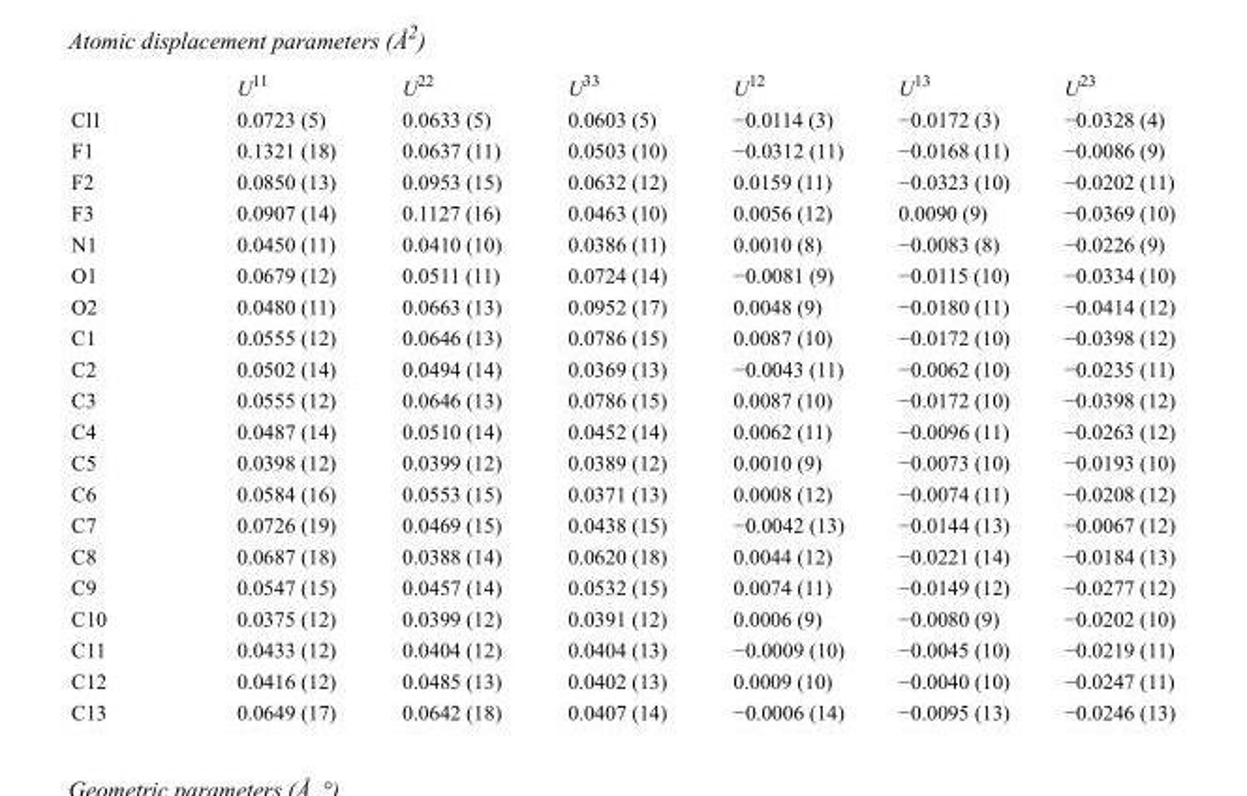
<table><thead><tr><td></td><td>U<sup>11</sup></td><td>U<sup>22</sup></td><td>U<sup>33</sup></td><td>U<sup>12</sup></td><td>U<sup>13</sup></td><td>U<sup>23</sup></td></tr></thead><tbody><tr><td>Cl1</td><td>0.0723 (5)</td><td>0.0633 (5)</td><td>0.0603 (5)</td><td>−0.0114 (3)</td><td>−0.0172 (3)</td><td>−0.0328 (4)</td></tr><tr><td>F1</td><td>0.1321 (18)</td><td>0.0637 (11)</td><td>0.0503 (10)</td><td>−0.0312 (11)</td><td>−0.0168 (11)</td><td>−0.0086 (9)</td></tr><tr><td>F2</td><td>0.0850 (13)</td><td>0.0953 (15)</td><td>0.0632 (12)</td><td>0.0159 (11)</td><td>−0.0323 (10)</td><td>−0.0202 (11)</td></tr><tr><td>F3</td><td>0.0907 (14)</td><td>0.1127 (16)</td><td>0.0463 (10)</td><td>0.0056 (12)</td><td>0.0090 (9)</td><td>−0.0369 (10)</td></tr><tr><td>N1</td><td>0.0450 (11)</td><td>0.0410 (10)</td><td>0.0386 (11)</td><td>0.0010 (8)</td><td>−0.0083 (8)</td><td>−0.0226 (9)</td></tr><tr><td>O1</td><td>0.0679 (12)</td><td>0.0511 (11)</td><td>0.0724 (14)</td><td>−0.0081 (9)</td><td>−0.0115 (10)</td><td>−0.0334 (10)</td></tr><tr><td>O2</td><td>0.0480 (11)</td><td>0.0663 (13)</td><td>0.0952 (17)</td><td>0.0048 (9)</td><td>−0.0180 (11)</td><td>−0.0414 (12)</td></tr><tr><td>C1</td><td>0.0555 (12)</td><td>0.0646 (13)</td><td>0.0786 (15)</td><td>0.0087 (10)</td><td>−0.0172 (10)</td><td>−0.0398 (12)</td></tr><tr><td>C2</td><td>0.0502 (14)</td><td>0.0494 (14)</td><td>0.0369 (13)</td><td>−0.0043 (11)</td><td>−0.0062 (10)</td><td>−0.0235 (11)</td></tr><tr><td>C3</td><td>0.0555 (12)</td><td>0.0646 (13)</td><td>0.0786 (15)</td><td>0.0087 (10)</td><td>−0.0172 (10)</td><td>−0.0398 (12)</td></tr><tr><td>C4</td><td>0.0487 (14)</td><td>0.0510 (14)</td><td>0.0452 (14)</td><td>0.0062 (11)</td><td>−0.0096 (11)</td><td>−0.0263 (12)</td></tr><tr><td>C5</td><td>0.0398 (12)</td><td>0.0399 (12)</td><td>0.0389 (12)</td><td>0.0010 (9)</td><td>−0.0073 (10)</td><td>−0.0193 (10)</td></tr><tr><td>C6</td><td>0.0584 (16)</td><td>0.0553 (15)</td><td>0.0371 (13)</td><td>0.0008 (12)</td><td>−0.0074 (11)</td><td>−0.0208 (12)</td></tr><tr><td>C7</td><td>0.0726 (19)</td><td>0.0469 (15)</td><td>0.0438 (15)</td><td>−0.0042 (13)</td><td>−0.0144 (13)</td><td>−0.0067 (12)</td></tr><tr><td>C8</td><td>0.0687 (18)</td><td>0.0388 (14)</td><td>0.0620 (18)</td><td>0.0044 (12)</td><td>−0.0221 (14)</td><td>−0.0184 (13)</td></tr><tr><td>C9</td><td>0.0547 (15)</td><td>0.0457 (14)</td><td>0.0532 (15)</td><td>0.0074 (11)</td><td>−0.0149 (12)</td><td>−0.0277 (12)</td></tr><tr><td>C10</td><td>0.0375 (12)</td><td>0.0399 (12)</td><td>0.0391 (12)</td><td>0.0006 (9)</td><td>−0.0080 (9)</td><td>−0.0202 (10)</td></tr><tr><td>C11</td><td>0.0433 (12)</td><td>0.0404 (12)</td><td>0.0404 (13)</td><td>−0.0009 (10)</td><td>−0.0045 (10)</td><td>−0.0219 (11)</td></tr><tr><td>C12</td><td>0.0416 (12)</td><td>0.0485 (13)</td><td>0.0402 (13)</td><td>0.0009 (10)</td><td>−0.0040 (10)</td><td>−0.0247 (11)</td></tr><tr><td>C13</td><td>0.0649 (17)</td><td>0.0642 (18)</td><td>0.0407 (14)</td><td>−0.0006 (14)</td><td>−0.0095 (13)</td><td>−0.0246 (13)</td></tr></tbody></table>